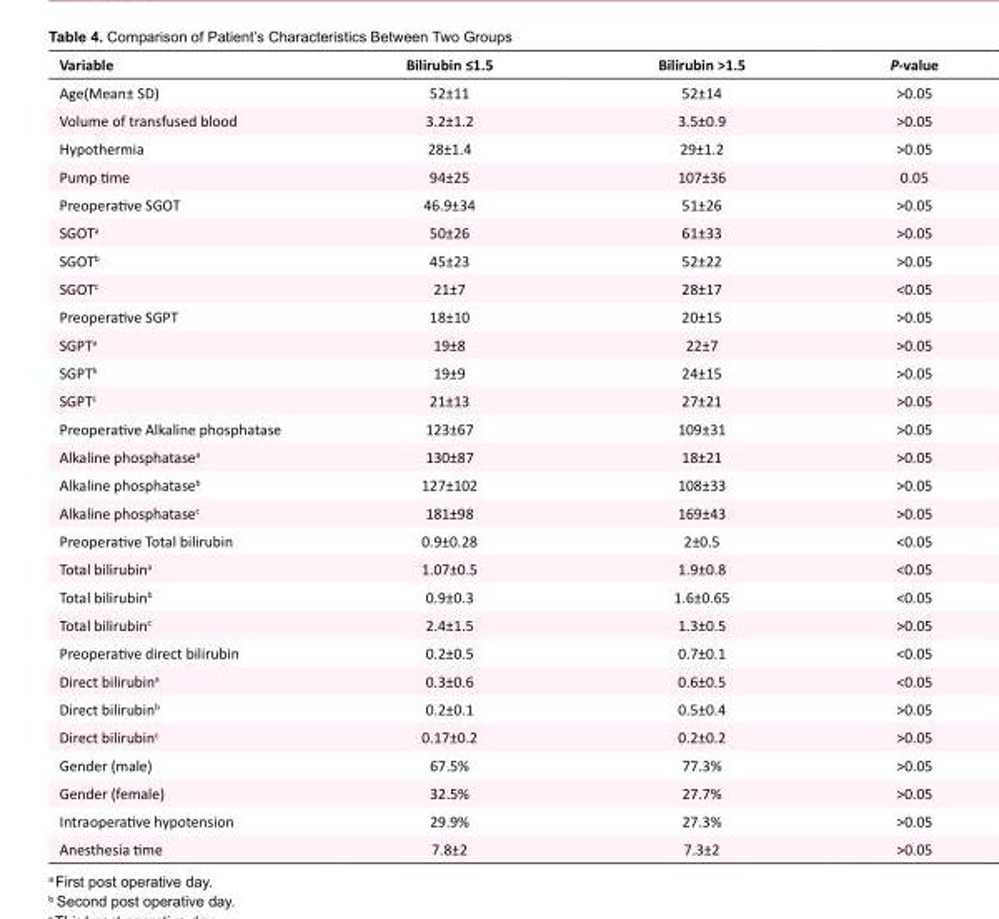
<table><tbody><tr><td>Variable</td><td>Bilirubin ≤1.5</td><td>Bilirubin &gt;1.5</td><td>P-value</td></tr><tr><td>Age(Mean± SD)</td><td>52±11</td><td>52±14</td><td>&gt;0.05</td></tr><tr><td>Volume of transfused blood</td><td>3.2±1.2</td><td>3.5±0.9</td><td>&gt;0.05</td></tr><tr><td>Hypothermia</td><td>28±1.4</td><td>29±1.2</td><td>&gt;0.05</td></tr><tr><td>Pump time</td><td>94±25</td><td>107±36</td><td>0.05</td></tr><tr><td>Preoperative SGOT</td><td>46.9±34</td><td>51±26</td><td>&gt;0.05</td></tr><tr><td>SGOT<sup>a</sup></td><td>50±26</td><td>61±33</td><td>&gt;0.05</td></tr><tr><td>SGOT<sup>b</sup></td><td>45±23</td><td>52±22</td><td>&gt;0.05</td></tr><tr><td>SGOT<sup>c</sup></td><td>21±7</td><td>28±17</td><td>&lt;0.05</td></tr><tr><td>Preoperative SGPT</td><td>18±10</td><td>20±15</td><td>&gt;0.05</td></tr><tr><td>SGPT<sup>a</sup></td><td>19±8</td><td>22±7</td><td>&gt;0.05</td></tr><tr><td>SGPT<sup>b</sup></td><td>19±9</td><td>24±15</td><td>&gt;0.05</td></tr><tr><td>SGPT<sup>c</sup></td><td>21±13</td><td>27±21</td><td>&gt;0.05</td></tr><tr><td>Preoperative Alkaline phosphatase</td><td>123±67</td><td>109±31</td><td>&gt;0.05</td></tr><tr><td>Alkaline phosphatase<sup>a</sup></td><td>130±87</td><td>18±21</td><td>&gt;0.05</td></tr><tr><td>Alkaline phosphatase<sup>b</sup></td><td>127±102</td><td>108±33</td><td>&gt;0.05</td></tr><tr><td>Alkaline phosphatase<sup>c</sup></td><td>181±98</td><td>169±43</td><td>&gt;0.05</td></tr><tr><td>Preoperative Total bilirubin</td><td>0.9±0.28</td><td>2±0.5</td><td>&lt;0.05</td></tr><tr><td>Total bilirubin<sup>a</sup></td><td>1.07±0.5</td><td>1.9±0.8</td><td>&lt;0.05</td></tr><tr><td>Total bilirubin<sup>b</sup></td><td>0.9±0.3</td><td>1.6±0.65</td><td>&lt;0.05</td></tr><tr><td>Total bilirubin<sup>c</sup></td><td>2.4±1.5</td><td>1.3±0.5</td><td>&gt;0.05</td></tr><tr><td>Preoperative direct bilirubin</td><td>0.2±0.5</td><td>0.7±0.1</td><td>&lt;0.05</td></tr><tr><td>Direct bilirubin<sup>a</sup></td><td>0.3±0.6</td><td>0.6±0.5</td><td>&lt;0.05</td></tr><tr><td>Direct bilirubin<sup>b</sup></td><td>0.2±0.1</td><td>0.5±0.4</td><td>&gt;0.05</td></tr><tr><td>Direct bilirubin<sup>c</sup></td><td>0.17±0.2</td><td>0.2±0.2</td><td>&gt;0.05</td></tr><tr><td>Gender (male)</td><td>67.5%</td><td>77.3%</td><td>&gt;0.05</td></tr><tr><td>Gender (female)</td><td>32.5%</td><td>27.7%</td><td>&gt;0.05</td></tr><tr><td>Intraoperative hypotension</td><td>29.9%</td><td>27.3%</td><td>&gt;0.05</td></tr><tr><td>Anesthesia time</td><td>7.8±2</td><td>7.3±2</td><td>&gt;0.05</td></tr></tbody></table>